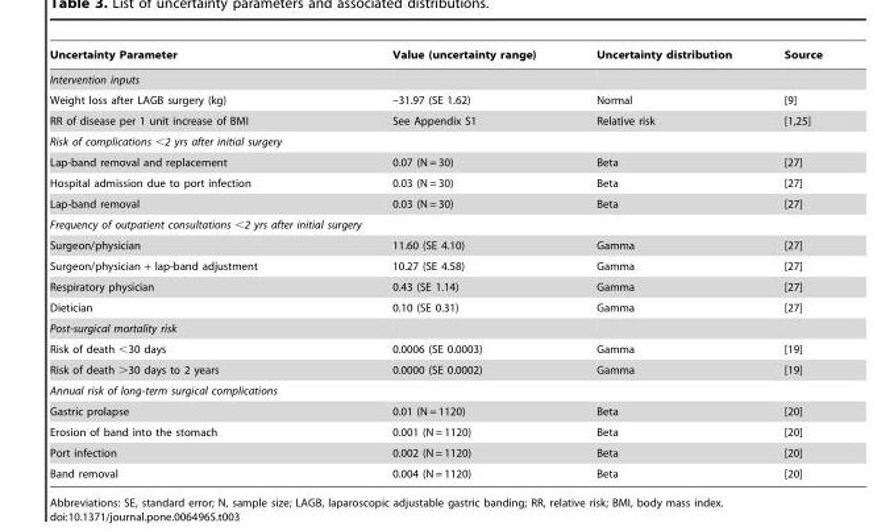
<table><thead><tr><td>Uncertainty Parameter</td><td>Value (uncertainty range)</td><td>Uncertainty distribution</td><td>Source</td></tr></thead><tbody><tr><td colspan="4">Intervention inputs</td></tr><tr><td>Weight loss after LAGB surgery (kg)</td><td>–31.97 (SE 1.62)</td><td>Normal</td><td>[9]</td></tr><tr><td>RR of disease per 1 unit increase of BMI</td><td>See Appendix S1</td><td>Relative risk</td><td>[1,25]</td></tr><tr><td colspan="4">Risk of complications &lt;2 yrs after initial surgery</td></tr><tr><td>Lap-band removal and replacement</td><td>0.07 (N = 30)</td><td>Beta</td><td>[27]</td></tr><tr><td>Hospital admission due to port infection</td><td>0.03 (N = 30)</td><td>Beta</td><td>[27]</td></tr><tr><td>Lap-band removal</td><td>0.03 (N = 30)</td><td>Beta</td><td>[27]</td></tr><tr><td colspan="4">Frequency of outpatient consultations &lt;2 yrs after initial surgery</td></tr><tr><td>Surgeon/physician</td><td>11.60 (SE 4.10)</td><td>Gamma</td><td>[27]</td></tr><tr><td>Surgeon/physician + lap-band adjustment</td><td>10.27 (SE 4.58)</td><td>Gamma</td><td>[27]</td></tr><tr><td>Respiratory physician</td><td>0.43 (SE 1.14)</td><td>Gamma</td><td>[27]</td></tr><tr><td>Dietician</td><td>0.10 (SE 0.31)</td><td>Gamma</td><td>[27]</td></tr><tr><td colspan="4">Post-surgical mortality risk</td></tr><tr><td>Risk of death &lt;30 days</td><td>0.0006 (SE 0.0003)</td><td>Gamma</td><td>[19]</td></tr><tr><td>Risk of death &gt;30 days to 2 years</td><td>0.0000 (SE 0.0002)</td><td>Gamma</td><td>[19]</td></tr><tr><td colspan="4">Annual risk of long-term surgical complications</td></tr><tr><td>Gastric prolapse</td><td>0.01 (N = 1120)</td><td>Beta</td><td>[20]</td></tr><tr><td>Erosion of band into the stomach</td><td>0.001 (N = 1120)</td><td>Beta</td><td>[20]</td></tr><tr><td>Port infection</td><td>0.002 (N = 1120)</td><td>Beta</td><td>[20]</td></tr><tr><td>Band removal</td><td>0.004 (N = 1120)</td><td>Beta</td><td>[20]</td></tr></tbody></table>